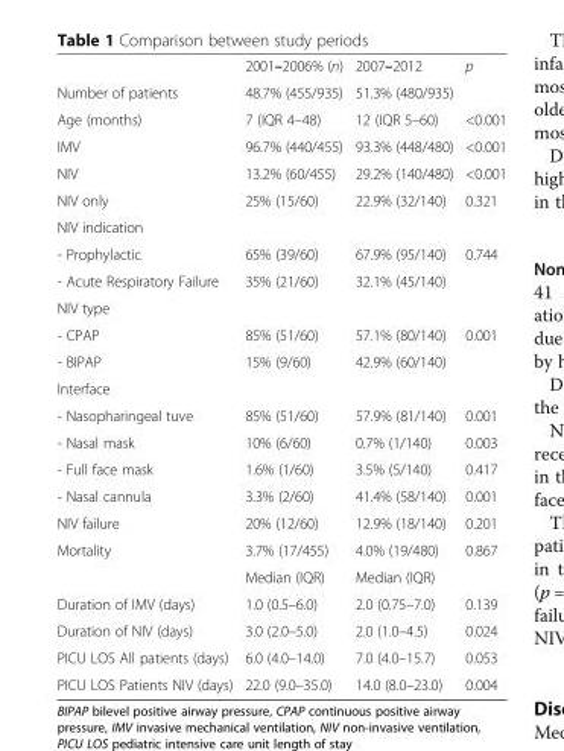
<table><thead><tr><td></td><td>2001–2006% (n)</td><td>2007–2012</td><td>p</td></tr></thead><tbody><tr><td>Number of patients</td><td>48.7% (455/935)</td><td>51.3% (480/935)</td><td></td></tr><tr><td>Age (months)</td><td>7 (IQR 4–48)</td><td>12 (IQR 5–60)</td><td>&lt;0.001</td></tr><tr><td>IMV</td><td>96.7% (440/455)</td><td>93.3% (448/480)</td><td>&lt;0.001</td></tr><tr><td>NIV</td><td>13.2% (60/455)</td><td>29.2% (140/480)</td><td>&lt;0.001</td></tr><tr><td>NIV only</td><td>25% (15/60)</td><td>22.9% (32/140)</td><td>0.321</td></tr><tr><td colspan="4">NIV indication</td></tr><tr><td>- Prophylactic</td><td>65% (39/60)</td><td>67.9% (95/140)</td><td rowspan="2">0.744</td></tr><tr><td>- Acute Respiratory Failure</td><td>35% (21/60)</td><td>32.1% (45/140)</td></tr><tr><td colspan="4">NIV type</td></tr><tr><td>- CPAP</td><td>85% (51/60)</td><td>57.1% (80/140)</td><td rowspan="2">0.001</td></tr><tr><td>- BIPAP</td><td>15% (9/60)</td><td>42.9% (60/140)</td></tr><tr><td colspan="4">Interface</td></tr><tr><td>- Nasopharingeal tuve</td><td>85% (51/60)</td><td>57.9% (81/140)</td><td>0.001</td></tr><tr><td>- Nasal mask</td><td>10% (6/60)</td><td>0.7% (1/140)</td><td>0.003</td></tr><tr><td>- Full face mask</td><td>1.6% (1/60)</td><td>3.5% (5/140)</td><td>0.417</td></tr><tr><td>- Nasal cannula</td><td>3.3% (2/60)</td><td>41.4% (58/140)</td><td>0.001</td></tr><tr><td>NIV failure</td><td>20% (12/60)</td><td>12.9% (18/140)</td><td>0.201</td></tr><tr><td rowspan="2">Mortality</td><td>3.7% (17/455)</td><td>4.0% (19/480)</td><td>0.867</td></tr><tr><td>Median (IQR)</td><td>Median (IQR)</td><td></td></tr><tr><td>Duration of IMV (days)</td><td>1.0 (0.5–6.0)</td><td>2.0 (0.75–7.0)</td><td>0.139</td></tr><tr><td>Duration of NIV (days)</td><td>3.0 (2.0–5.0)</td><td>2.0 (1.0–4.5)</td><td>0.024</td></tr><tr><td>PICU LOS All patients (days)</td><td>6.0 (4.0–14.0)</td><td>7.0 (4.0–15.7)</td><td>0.053</td></tr><tr><td>PICU LOS Patients NIV (days)</td><td>22.0 (9.0–35.0)</td><td>14.0 (8.0–23.0)</td><td>0.004</td></tr></tbody></table>